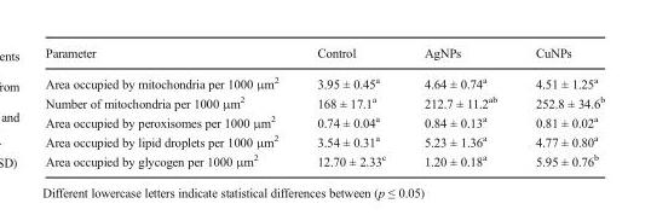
<table><thead><tr><td>Parameter</td><td>Control</td><td>AgNPs</td><td>CuNPs</td></tr></thead><tbody><tr><td>Area occupied by mitochondria per 1000 μm<sup>2</sup></td><td>3.95 ± 0.45<sup>a</sup></td><td>4.64 ± 0.74<sup>a</sup></td><td>4.51 ± 1.25<sup>a</sup></td></tr><tr><td>Number of mitochondria per 1000 μm<sup>2</sup></td><td>168 ± 17.1<sup>a</sup></td><td>212.7 ± 11.2<sup>ab</sup></td><td>252.8 ± 34.6<sup>b</sup></td></tr><tr><td>Area occupied by peroxisomes per 1000 μm<sup>2</sup></td><td>0.74 ± 0.04<sup>a</sup></td><td>0.84 ± 0.13<sup>a</sup></td><td>0.81 ± 0.02<sup>a</sup></td></tr><tr><td>Area occupied by lipid droplets per 1000 μm<sup>2</sup></td><td>3.54 ± 0.31<sup>a</sup></td><td>5.23 ± 1.36<sup>a</sup></td><td>4.77 ± 0.80<sup>a</sup></td></tr><tr><td>Area occupied by glycogen per 1000 μm<sup>2</sup></td><td>12.70 ± 2.33<sup>c</sup></td><td>1.20 ± 0.18<sup>a</sup></td><td>5.95 ± 0.76<sup>b</sup></td></tr></tbody></table>